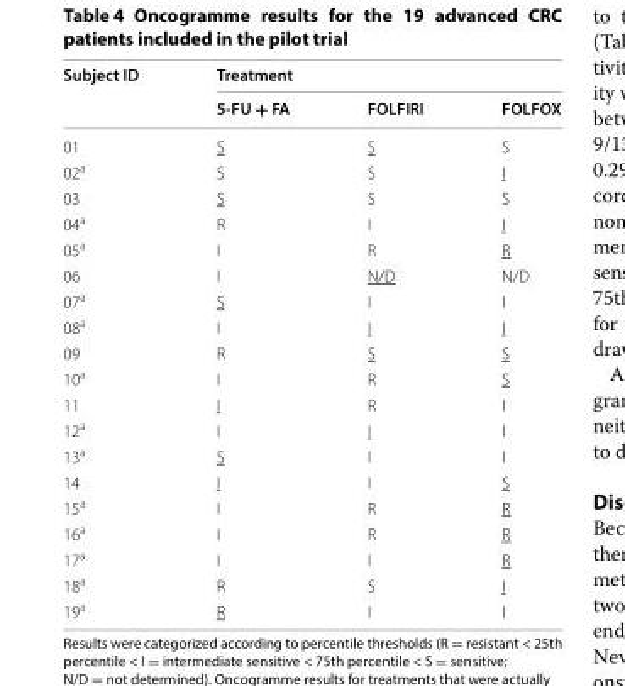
<table><thead><tr><td rowspan="2">Subject ID</td><td colspan="3">Treatment</td></tr><tr><td>5-FU + FA</td><td>FOLFIRI</td><td>FOLFOX</td></tr></thead><tbody><tr><td>01</td><td>S</td><td>S</td><td>S</td></tr><tr><td>02<sup>a</sup></td><td>S</td><td>S</td><td>I</td></tr><tr><td>03</td><td>S</td><td>S</td><td>S</td></tr><tr><td>04<sup>a</sup></td><td>R</td><td>I</td><td>I</td></tr><tr><td>05<sup>a</sup></td><td>I</td><td>R</td><td>R</td></tr><tr><td>06</td><td>I</td><td>N/D</td><td>N/D</td></tr><tr><td>07<sup>a</sup></td><td>S</td><td>I</td><td>I</td></tr><tr><td>08<sup>a</sup></td><td>I</td><td>I</td><td>I</td></tr><tr><td>09</td><td>R</td><td>S</td><td>S</td></tr><tr><td>10<sup>a</sup></td><td>I</td><td>R</td><td>S</td></tr><tr><td>11</td><td>I</td><td>R</td><td>I</td></tr><tr><td>12<sup>a</sup></td><td>I</td><td>I</td><td>I</td></tr><tr><td>13<sup>a</sup></td><td>S</td><td>I</td><td>I</td></tr><tr><td>14</td><td>I</td><td>I</td><td>S</td></tr><tr><td>15<sup>a</sup></td><td>I</td><td>R</td><td>R</td></tr><tr><td>16<sup>a</sup></td><td>I</td><td>R</td><td>R</td></tr><tr><td>17<sup>a</sup></td><td>I</td><td>I</td><td>R</td></tr><tr><td>18<sup>a</sup></td><td>R</td><td>S</td><td>I</td></tr><tr><td>19<sup>a</sup></td><td>R</td><td>I</td><td>I</td></tr></tbody></table>